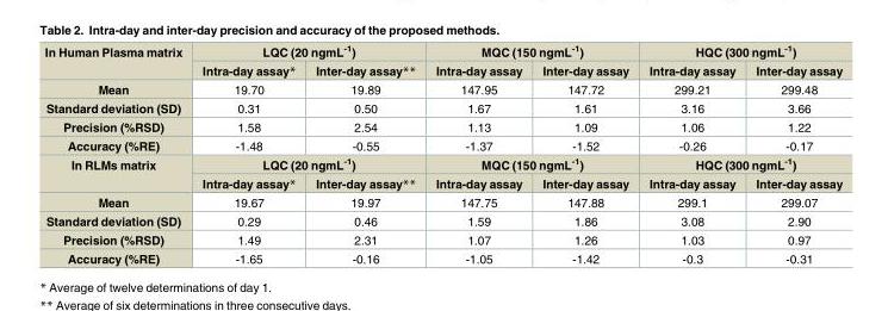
<table><tbody><tr><td rowspan="2">In Human Plasma matrix</td><td colspan="2">LQC (20 ngmL<sup>-1</sup>)</td><td colspan="2">MQC (150 ngmL<sup>-1</sup>)</td><td colspan="2">HQC (300 ngmL<sup>-1</sup>)</td></tr><tr><td>Intra-day assay*</td><td>Inter-day assay**</td><td>Intra-day assay</td><td>Inter-day assay</td><td>Intra-day assay</td><td>Inter-day assay</td></tr><tr><td>Mean</td><td>19.70</td><td>19.89</td><td>147.95</td><td>147.72</td><td>299.21</td><td>299.48</td></tr><tr><td>Standard deviation (SD)</td><td>0.31</td><td>0.50</td><td>1.67</td><td>1.61</td><td>3.16</td><td>3.66</td></tr><tr><td>Precision (%RSD)</td><td>1.58</td><td>2.54</td><td>1.13</td><td>1.09</td><td>1.06</td><td>1.22</td></tr><tr><td>Accuracy (%RE)</td><td>-1.48</td><td>-0.55</td><td>-1.37</td><td>-1.52</td><td>-0.26</td><td>-0.17</td></tr><tr><td rowspan="2">In RLMs matrix</td><td colspan="2">LQC (20 ngmL<sup>-1</sup>)</td><td colspan="2">MQC (150 ngmL<sup>-1</sup>)</td><td colspan="2">HQC (300 ngmL<sup>-1</sup>)</td></tr><tr><td>Intra-day assay*</td><td>Inter-day assay**</td><td>Intra-day assay</td><td>Inter-day assay</td><td>Intra-day assay</td><td>Inter-day assay</td></tr><tr><td>Mean</td><td>19.67</td><td>19.97</td><td>147.75</td><td>147.88</td><td>299.1</td><td>299.07</td></tr><tr><td>Standard deviation (SD)</td><td>0.29</td><td>0.46</td><td>1.59</td><td>1.86</td><td>3.08</td><td>2.90</td></tr><tr><td>Precision (%RSD)</td><td>1.49</td><td>2.31</td><td>1.07</td><td>1.26</td><td>1.03</td><td>0.97</td></tr><tr><td>Accuracy (%RE)</td><td>-1.65</td><td>-0.16</td><td>-1.05</td><td>-1.42</td><td>-0.3</td><td>-0.31</td></tr></tbody></table>